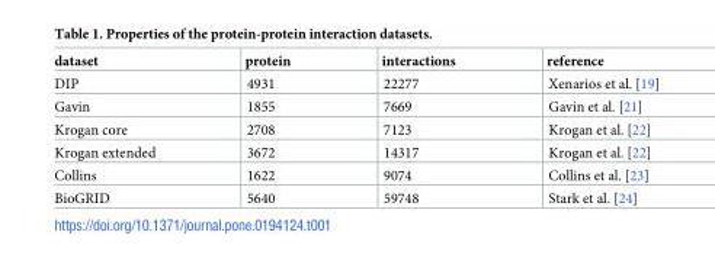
<table><thead><tr><td>dataset</td><td>protein</td><td>interactions</td><td>reference</td></tr></thead><tbody><tr><td>DIP</td><td>4931</td><td>22277</td><td>Xenarios et al. [19]</td></tr><tr><td>Gavin</td><td>1855</td><td>7669</td><td>Gavin et al. [21]</td></tr><tr><td>Krogan core</td><td>2708</td><td>7123</td><td>Krogan et al. [22]</td></tr><tr><td>Krogan extended</td><td>3672</td><td>14317</td><td>Krogan et al. [22]</td></tr><tr><td>Collins</td><td>1622</td><td>9074</td><td>Collins et al. [23]</td></tr><tr><td>BioGRID</td><td>5640</td><td>59748</td><td>Stark et al. [24]</td></tr></tbody></table>